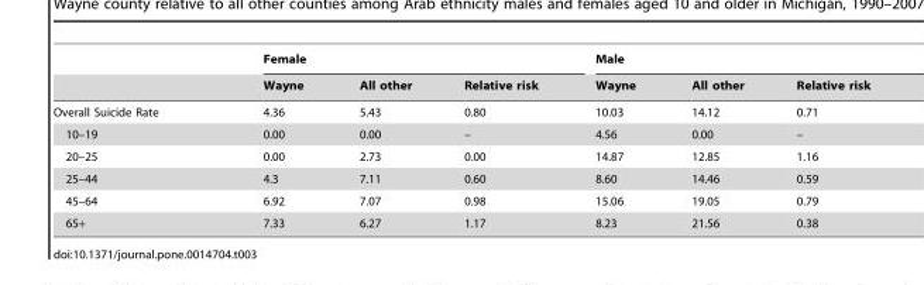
<table><thead><tr><td rowspan="2"></td><td colspan="3">Female</td><td colspan="3">Male</td></tr><tr><td>Wayne</td><td>All other</td><td>Relative risk</td><td>Wayne</td><td>All other</td><td>Relative risk</td></tr></thead><tbody><tr><td>Overall Suicide Rate</td><td>4.36</td><td>5.43</td><td>0.80</td><td>10.03</td><td>14.12</td><td>0.71</td></tr><tr><td>10–19</td><td>0.00</td><td>0.00</td><td>–</td><td>4.56</td><td>0.00</td><td>–</td></tr><tr><td>20–25</td><td>0.00</td><td>2.73</td><td>0.00</td><td>14.87</td><td>12.85</td><td>1.16</td></tr><tr><td>25–44</td><td>4.3</td><td>7.11</td><td>0.60</td><td>8.60</td><td>14.46</td><td>0.59</td></tr><tr><td>45–64</td><td>6.92</td><td>7.07</td><td>0.98</td><td>15.06</td><td>19.05</td><td>0.79</td></tr><tr><td>65+</td><td>7.33</td><td>6.27</td><td>1.17</td><td>8.23</td><td>21.56</td><td>0.38</td></tr></tbody></table>